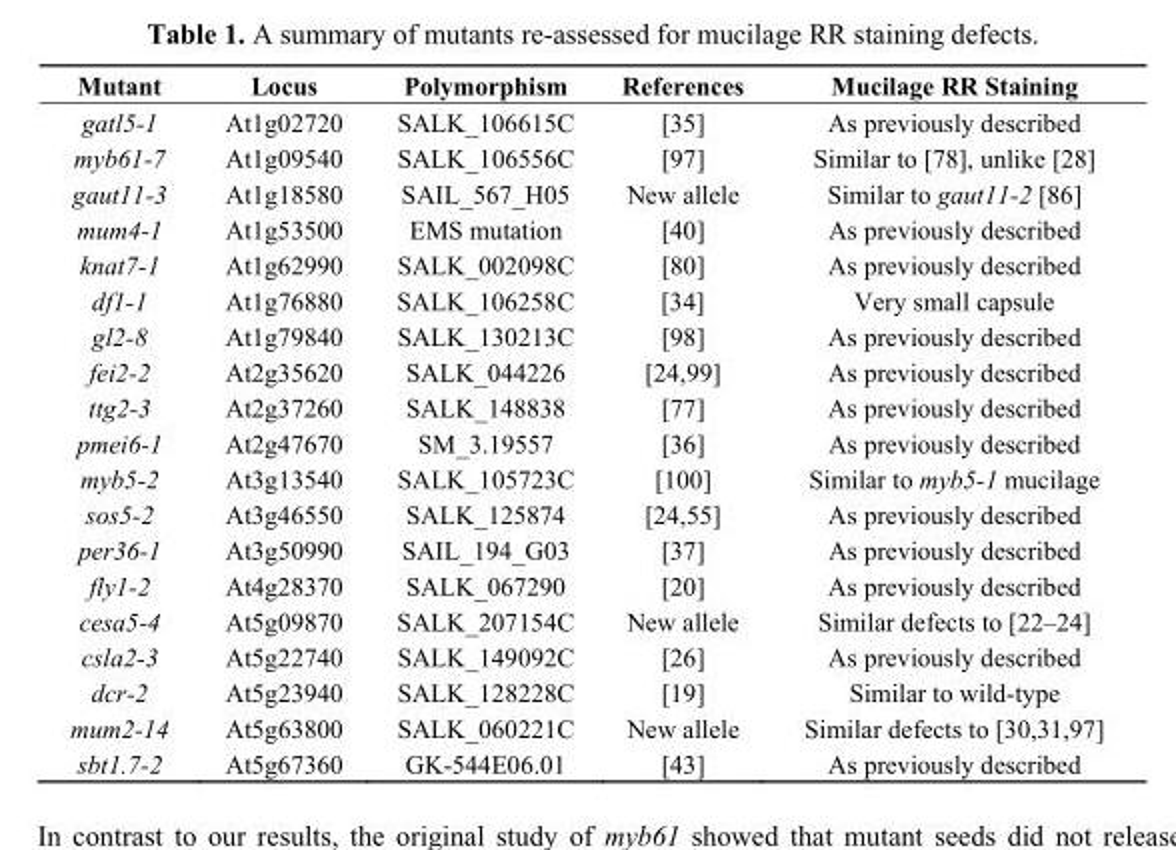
<table><thead><tr><td>Mutant</td><td>Locus</td><td>Polymorphism</td><td>References</td><td>Mucilage RR Staining</td></tr></thead><tbody><tr><td>gatl5-1</td><td>At1g02720</td><td>SALK_106615C</td><td>[35]</td><td>As previously described</td></tr><tr><td>myb61-7</td><td>At1g09540</td><td>SALK_106556C</td><td>[97]</td><td>Similar to [78], unlike [28]</td></tr><tr><td>gaut11-3</td><td>At1g18580</td><td>SAIL_567_H05</td><td>New allele</td><td>Similar to gaut11-2 [86]</td></tr><tr><td>mum4-1</td><td>At1g53500</td><td>EMS mutation</td><td>[40]</td><td>As previously described</td></tr><tr><td>knat7-1</td><td>At1g62990</td><td>SALK_002098C</td><td>[80]</td><td>As previously described</td></tr><tr><td>df1-1</td><td>At1g76880</td><td>SALK_106258C</td><td>[34]</td><td>Very small capsule</td></tr><tr><td>gl2-8</td><td>At1g79840</td><td>SALK_130213C</td><td>[98]</td><td>As previously described</td></tr><tr><td>fei2-2</td><td>At2g35620</td><td>SALK_044226</td><td>[24,99]</td><td>As previously described</td></tr><tr><td>ttg2-3</td><td>At2g37260</td><td>SALK_148838</td><td>[77]</td><td>As previously described</td></tr><tr><td>pmei6-1</td><td>At2g47670</td><td>SM_3.19557</td><td>[36]</td><td>As previously described</td></tr><tr><td>myb5-2</td><td>At3g13540</td><td>SALK_105723C</td><td>[100]</td><td>Similar to myb5-1 mucilage</td></tr><tr><td>sos5-2</td><td>At3g46550</td><td>SALK_125874</td><td>[24,55]</td><td>As previously described</td></tr><tr><td>per36-1</td><td>At3g50990</td><td>SAIL_194_G03</td><td>[37]</td><td>As previously described</td></tr><tr><td>fly1-2</td><td>At4g28370</td><td>SALK_067290</td><td>[20]</td><td>As previously described</td></tr><tr><td>cesa5-4</td><td>At5g09870</td><td>SALK_207154C</td><td>New allele</td><td>Similar defects to [22–24]</td></tr><tr><td>csla2-3</td><td>At5g22740</td><td>SALK_149092C</td><td>[26]</td><td>As previously described</td></tr><tr><td>dcr-2</td><td>At5g23940</td><td>SALK_128228C</td><td>[19]</td><td>Similar to wild-type</td></tr><tr><td>mum2-14</td><td>At5g63800</td><td>SALK_060221C</td><td>New allele</td><td>Similar defects to [30,31,97]</td></tr><tr><td>sbt1.7-2</td><td>At5g67360</td><td>GK-544E06.01</td><td>[43]</td><td>As previously described</td></tr></tbody></table>